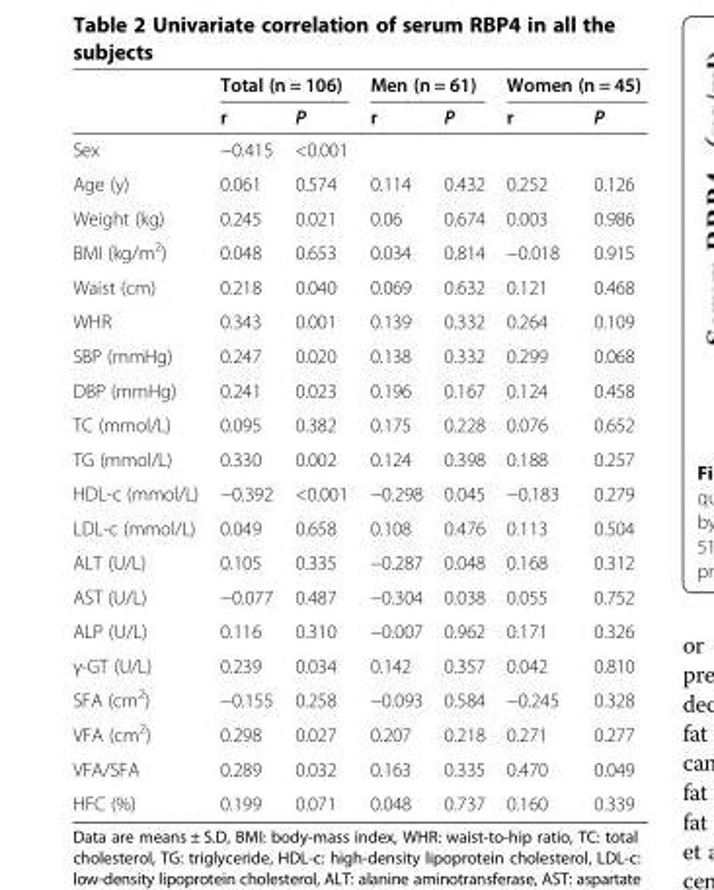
<table><thead><tr><td rowspan="2"></td><td colspan="2">Total (n = 106)</td><td colspan="2">Men (n = 61)</td><td colspan="2">Women (n = 45)</td></tr><tr><td>r</td><td>P</td><td>r</td><td>P</td><td>r</td><td>P</td></tr></thead><tbody><tr><td>Sex</td><td>−0.415</td><td>&lt;0.001</td><td></td><td></td><td></td><td></td></tr><tr><td>Age (y)</td><td>0.061</td><td>0.574</td><td>0.114</td><td>0.432</td><td>0.252</td><td>0.126</td></tr><tr><td>Weight (kg)</td><td>0.245</td><td>0.021</td><td>0.06</td><td>0.674</td><td>0.003</td><td>0.986</td></tr><tr><td>BMI (kg/m<sup>2</sup>)</td><td>0.048</td><td>0.653</td><td>0.034</td><td>0.814</td><td>−0.018</td><td>0.915</td></tr><tr><td>Waist (cm)</td><td>0.218</td><td>0.040</td><td>0.069</td><td>0.632</td><td>0.121</td><td>0.468</td></tr><tr><td>WHR</td><td>0.343</td><td>0.001</td><td>0.139</td><td>0.332</td><td>0.264</td><td>0.109</td></tr><tr><td>SBP (mmHg)</td><td>0.247</td><td>0.020</td><td>0.138</td><td>0.332</td><td>0.299</td><td>0.068</td></tr><tr><td>DBP (mmHg)</td><td>0.241</td><td>0.023</td><td>0.196</td><td>0.167</td><td>0.124</td><td>0.458</td></tr><tr><td>TC (mmol/L)</td><td>0.095</td><td>0.382</td><td>0.175</td><td>0.228</td><td>0.076</td><td>0.652</td></tr><tr><td>TG (mmol/L)</td><td>0.330</td><td>0.002</td><td>0.124</td><td>0.398</td><td>0.188</td><td>0.257</td></tr><tr><td>HDL-c (mmol/L)</td><td>−0.392</td><td>&lt;0.001</td><td>−0.298</td><td>0.045</td><td>−0.183</td><td>0.279</td></tr><tr><td>LDL-c (mmol/L)</td><td>0.049</td><td>0.658</td><td>0.108</td><td>0.476</td><td>0.113</td><td>0.504</td></tr><tr><td>ALT (U/L)</td><td>0.105</td><td>0.335</td><td>−0.287</td><td>0.048</td><td>0.168</td><td>0.312</td></tr><tr><td>AST (U/L)</td><td>−0.077</td><td>0.487</td><td>−0.304</td><td>0.038</td><td>0.055</td><td>0.752</td></tr><tr><td>ALP (U/L)</td><td>0.116</td><td>0.310</td><td>−0.007</td><td>0.962</td><td>0.171</td><td>0.326</td></tr><tr><td>γ-GT (U/L)</td><td>0.239</td><td>0.034</td><td>0.142</td><td>0.357</td><td>0.042</td><td>0.810</td></tr><tr><td>SFA (cm<sup>2</sup>)</td><td>−0.155</td><td>0.258</td><td>−0.093</td><td>0.584</td><td>−0.245</td><td>0.328</td></tr><tr><td>VFA (cm<sup>2</sup>)</td><td>0.298</td><td>0.027</td><td>0.207</td><td>0.218</td><td>0.271</td><td>0.277</td></tr><tr><td>VFA/SFA</td><td>0.289</td><td>0.032</td><td>0.163</td><td>0.335</td><td>0.470</td><td>0.049</td></tr><tr><td>HFC (%)</td><td>0.199</td><td>0.071</td><td>0.048</td><td>0.737</td><td>0.160</td><td>0.339</td></tr></tbody></table>